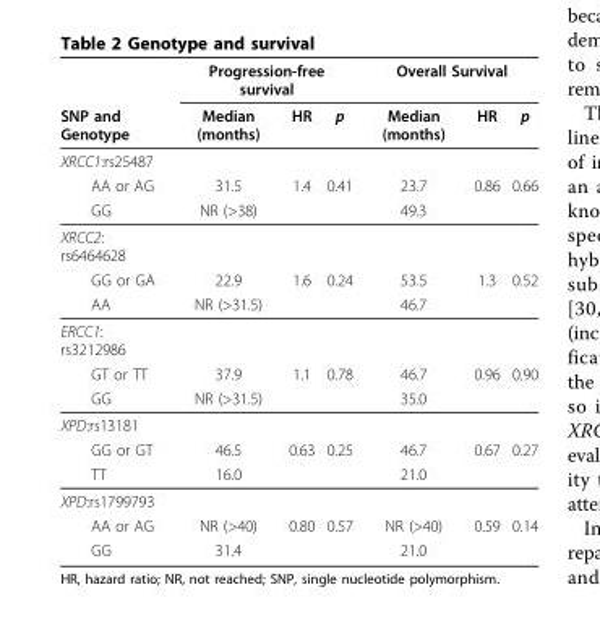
<table><thead><tr><td rowspan="2">SNP and Genotype</td><td colspan="3">Progression-free survival</td><td colspan="3">Overall Survival</td></tr><tr><td>Median (months)</td><td>HR</td><td>p</td><td>Median (months)</td><td>HR</td><td>p</td></tr></thead><tbody><tr><td colspan="7">XRCC1:rs25487</td></tr><tr><td>AA or AG</td><td>31.5</td><td>1.4</td><td>0.41</td><td>23.7</td><td>0.86</td><td>0.66</td></tr><tr><td>GG</td><td>NR (&gt;38)</td><td></td><td></td><td>49.3</td><td></td><td></td></tr><tr><td colspan="7">XRCC2: rs6464628</td></tr><tr><td>GG or GA</td><td>22.9</td><td>1.6</td><td>0.24</td><td>53.5</td><td>1.3</td><td>0.52</td></tr><tr><td>AA</td><td>NR (&gt;31.5)</td><td></td><td></td><td>46.7</td><td></td><td></td></tr><tr><td colspan="7">ERCC1: rs3212986</td></tr><tr><td>GT or TT</td><td>37.9</td><td>1.1</td><td>0.78</td><td>46.7</td><td>0.96</td><td>0.90</td></tr><tr><td>GG</td><td>NR (&gt;31.5)</td><td></td><td></td><td>35.0</td><td></td><td></td></tr><tr><td colspan="7">XPD:rs13181</td></tr><tr><td>GG or GT</td><td>46.5</td><td>0.63</td><td>0.25</td><td>46.7</td><td>0.67</td><td>0.27</td></tr><tr><td>TT</td><td>16.0</td><td></td><td></td><td>21.0</td><td></td><td></td></tr><tr><td colspan="7">XPD:rs1799793</td></tr><tr><td>AA or AG</td><td>NR (&gt;40)</td><td>0.80</td><td>0.57</td><td>NR (&gt;40)</td><td>0.59</td><td>0.14</td></tr><tr><td>GG</td><td>31.4</td><td></td><td></td><td>21.0</td><td></td><td></td></tr></tbody></table>